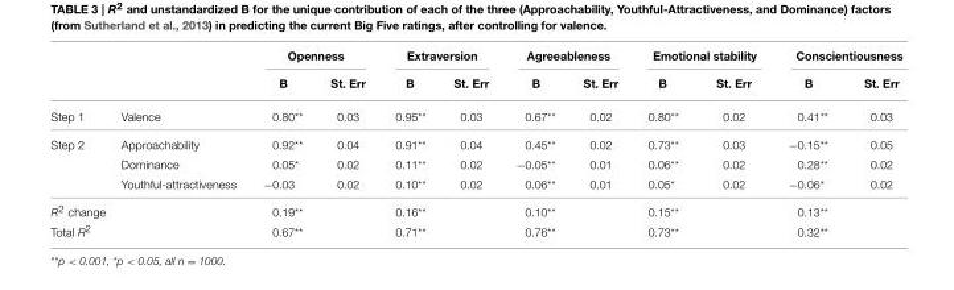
<table><thead><tr><td rowspan="2"></td><td rowspan="2"></td><td colspan="2">Openness</td><td colspan="2">Extraversion</td><td colspan="2">Agreeableness</td><td colspan="2">Emotional stability</td><td colspan="2">Conscientiousness</td></tr><tr><td>B</td><td>St. Err</td><td>B</td><td>St. Err</td><td>B</td><td>St. Err</td><td>B</td><td>St. Err</td><td>B</td><td>St. Err</td></tr></thead><tbody><tr><td>Step 1</td><td>Valence</td><td>0.80**</td><td>0.03</td><td>0.95**</td><td>0.03</td><td>0.67**</td><td>0.02</td><td>0.80**</td><td>0.02</td><td>0.41**</td><td>0.03</td></tr><tr><td rowspan="3">Step 2</td><td>Approachability</td><td>0.92**</td><td>0.04</td><td>0.91**</td><td>0.04</td><td>0.45**</td><td>0.02</td><td>0.73**</td><td>0.03</td><td>−0.15**</td><td>0.05</td></tr><tr><td>Dominance</td><td>0.05*</td><td>0.02</td><td>0.11**</td><td>0.02</td><td>−0.05**</td><td>0.01</td><td>0.06**</td><td>0.02</td><td>0.28**</td><td>0.02</td></tr><tr><td>Youthful-attractiveness</td><td>−0.03</td><td>0.02</td><td>0.10**</td><td>0.02</td><td>0.06**</td><td>0.01</td><td>0.05*</td><td>0.02</td><td>−0.06*</td><td>0.02</td></tr><tr><td>R<sup>2</sup> change</td><td></td><td>0.19**</td><td></td><td>0.16**</td><td></td><td>0.10**</td><td></td><td>0.15**</td><td></td><td>0.13**</td><td></td></tr><tr><td>Total R<sup>2</sup></td><td></td><td>0.67**</td><td></td><td>0.71**</td><td></td><td>0.76**</td><td></td><td>0.73**</td><td></td><td>0.32**</td><td></td></tr></tbody></table>